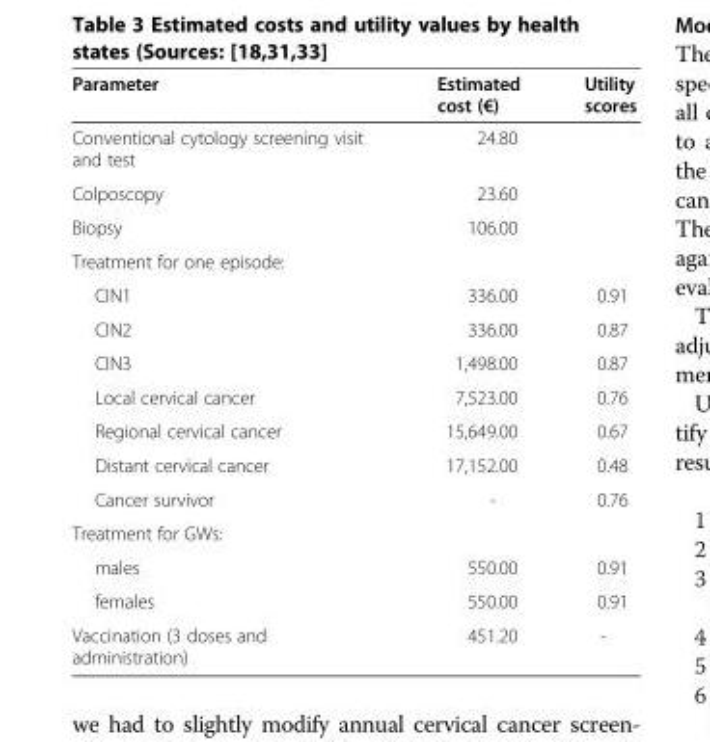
<table><thead><tr><td>Parameter</td><td>Estimated cost (€)</td><td>Utility scores</td></tr></thead><tbody><tr><td>Conventional cytology screening visit and test</td><td>24.80</td><td></td></tr><tr><td>Colposcopy</td><td>23.60</td><td></td></tr><tr><td>Biopsy</td><td>106.00</td><td></td></tr><tr><td colspan="3">Treatment for one episode:</td></tr><tr><td>CIN1</td><td>336.00</td><td>0.91</td></tr><tr><td>CIN2</td><td>336.00</td><td>0.87</td></tr><tr><td>CIN3</td><td>1,498.00</td><td>0.87</td></tr><tr><td>Local cervical cancer</td><td>7,523.00</td><td>0.76</td></tr><tr><td>Regional cervical cancer</td><td>15,649.00</td><td>0.67</td></tr><tr><td>Distant cervical cancer</td><td>17,152.00</td><td>0.48</td></tr><tr><td>Cancer survivor</td><td>-</td><td>0.76</td></tr><tr><td colspan="3">Treatment for GWs:</td></tr><tr><td>males</td><td>550.00</td><td>0.91</td></tr><tr><td>females</td><td>550.00</td><td>0.91</td></tr><tr><td>Vaccination (3 doses and administration)</td><td>451.20</td><td>-</td></tr></tbody></table>